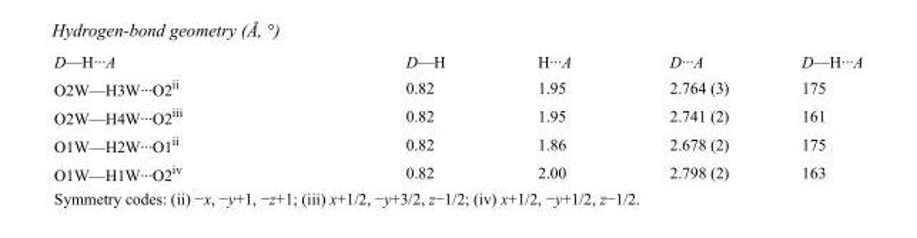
<table><tbody><tr><td>D—H···A</td><td>D—H</td><td>H···A</td><td>D···A</td><td>D—H···A</td></tr><tr><td>O2W—H3W···O2<sup>ii</sup></td><td>0.82</td><td>1.95</td><td>2.764 (3)</td><td>175</td></tr><tr><td>O2W—H4W···O2<sup>iii</sup></td><td>0.82</td><td>1.95</td><td>2.741 (2)</td><td>161</td></tr><tr><td>O1W—H2W···O1<sup>ii</sup></td><td>0.82</td><td>1.86</td><td>2.678 (2)</td><td>175</td></tr><tr><td>O1W—H1W···O2<sup>iv</sup></td><td>0.82</td><td>2.00</td><td>2.798 (2)</td><td>163</td></tr></tbody></table>